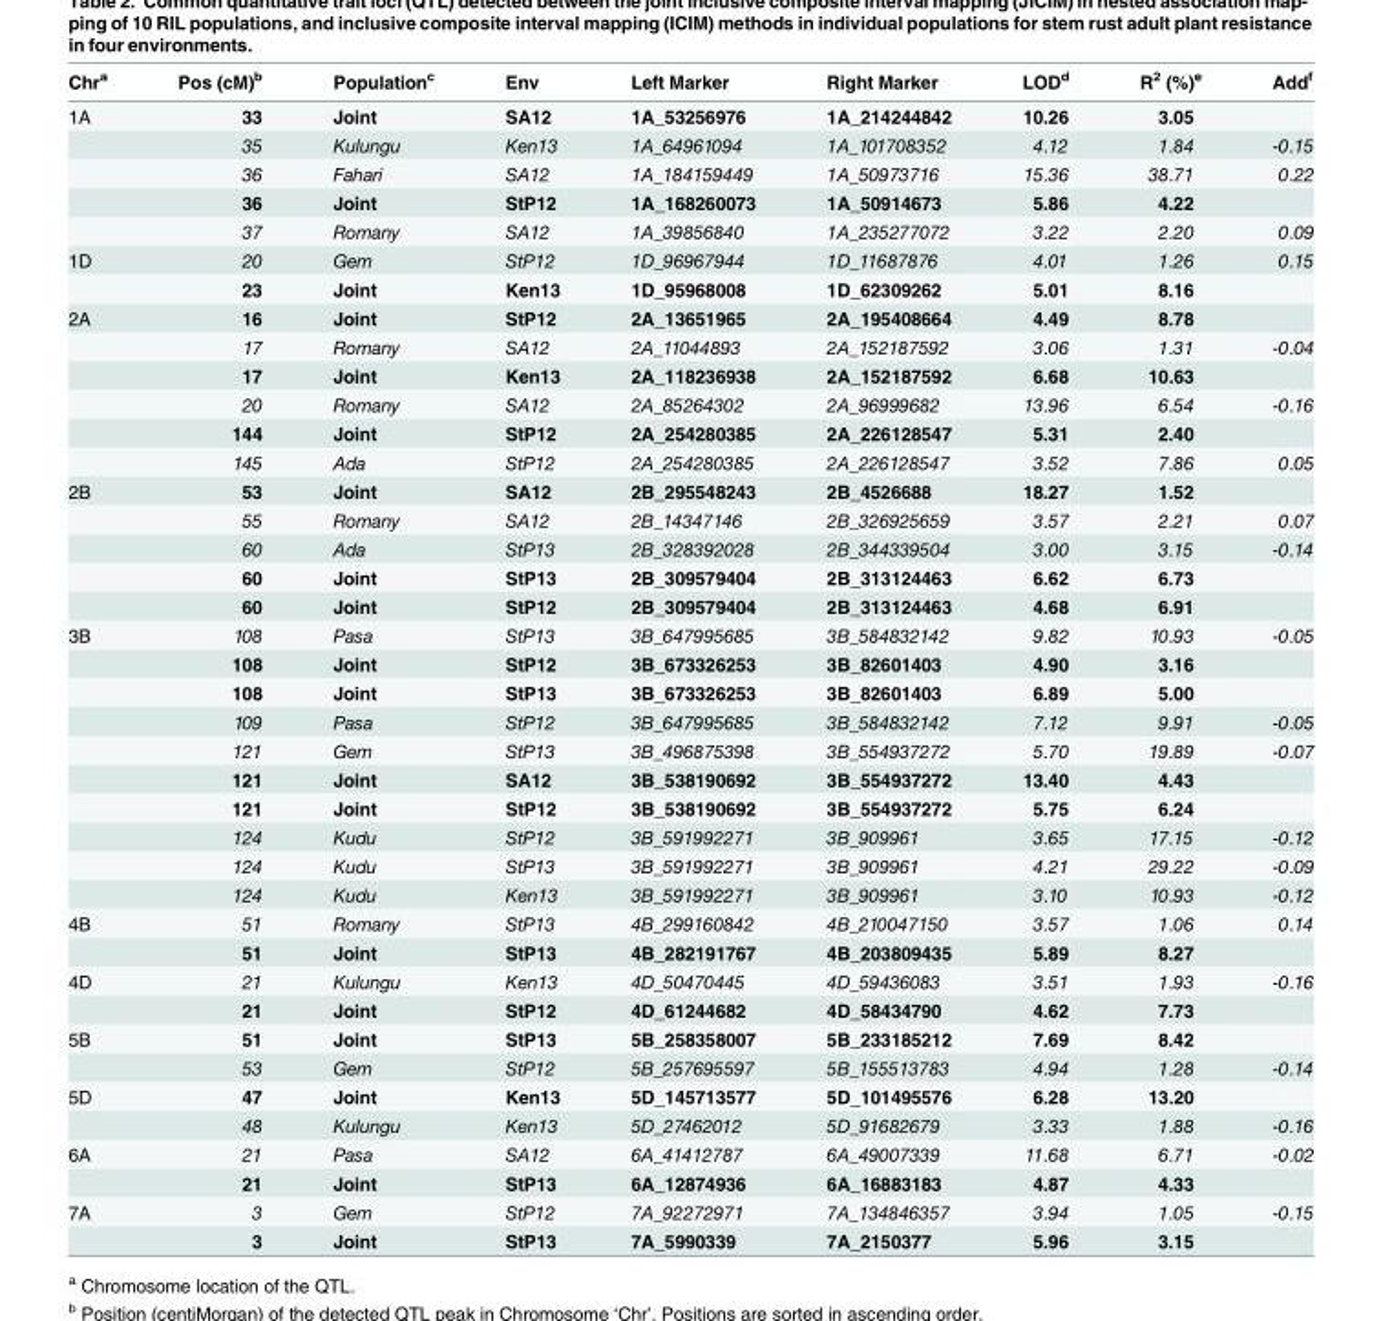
<table><thead><tr><td>Chr<sup>a</sup></td><td>Pos (cM)<sup>b</sup></td><td>Population<sup>c</sup></td><td>Env</td><td>Left Marker</td><td>Right Marker</td><td>LOD<sup>d</sup></td><td>R<sup>2</sup> (%)<sup>e</sup></td><td>Add<sup>f</sup></td></tr></thead><tbody><tr><td rowspan="5">1A</td><td>33</td><td>Joint</td><td>SA12</td><td>1A_53256976</td><td>1A_214244842</td><td>10.26</td><td>3.05</td><td></td></tr><tr><td>35</td><td>Kulungu</td><td>Ken13</td><td>1A_64961094</td><td>1A_101708352</td><td>4.12</td><td>1.84</td><td>-0.15</td></tr><tr><td>36</td><td>Fahari</td><td>SA12</td><td>1A_184159449</td><td>1A_50973716</td><td>15.36</td><td>38.71</td><td>0.22</td></tr><tr><td>36</td><td>Joint</td><td>StP12</td><td>1A_168260073</td><td>1A_50914673</td><td>5.86</td><td>4.22</td><td></td></tr><tr><td>37</td><td>Romany</td><td>SA12</td><td>1A_39856840</td><td>1A_235277072</td><td>3.22</td><td>2.20</td><td>0.09</td></tr><tr><td rowspan="2">1D</td><td>20</td><td>Gem</td><td>StP12</td><td>1D_96967944</td><td>1D_11687876</td><td>4.01</td><td>1.26</td><td>0.15</td></tr><tr><td>23</td><td>Joint</td><td>Ken13</td><td>1D_95968008</td><td>1D_62309262</td><td>5.01</td><td>8.16</td><td></td></tr><tr><td rowspan="6">2A</td><td>16</td><td>Joint</td><td>StP12</td><td>2A_13651965</td><td>2A_195408664</td><td>4.49</td><td>8.78</td><td></td></tr><tr><td>17</td><td>Romany</td><td>SA12</td><td>2A_11044893</td><td>2A_152187592</td><td>3.06</td><td>1.31</td><td>-0.04</td></tr><tr><td>17</td><td>Joint</td><td>Ken13</td><td>2A_118236938</td><td>2A_152187592</td><td>6.68</td><td>10.63</td><td></td></tr><tr><td>20</td><td>Romany</td><td>SA12</td><td>2A_85264302</td><td>2A_96999682</td><td>13.96</td><td>6.54</td><td>-0.16</td></tr><tr><td>144</td><td>Joint</td><td>StP12</td><td>2A_254280385</td><td>2A_226128547</td><td>5.31</td><td>2.40</td><td></td></tr><tr><td>145</td><td>Ada</td><td>StP12</td><td>2A_254280385</td><td>2A_226128547</td><td>3.52</td><td>7.86</td><td>0.05</td></tr><tr><td rowspan="5">2B</td><td>53</td><td>Joint</td><td>SA12</td><td>2B_295548243</td><td>2B_4526688</td><td>18.27</td><td>1.52</td><td></td></tr><tr><td>55</td><td>Romany</td><td>SA12</td><td>2B_14347146</td><td>2B_326925659</td><td>3.57</td><td>2.21</td><td>0.07</td></tr><tr><td>60</td><td>Ada</td><td>StP13</td><td>2B_328392028</td><td>2B_344339504</td><td>3.00</td><td>3.15</td><td>-0.14</td></tr><tr><td>60</td><td>Joint</td><td>StP13</td><td>2B_309579404</td><td>2B_313124463</td><td>6.62</td><td>6.73</td><td></td></tr><tr><td>60</td><td>Joint</td><td>StP12</td><td>2B_309579404</td><td>2B_313124463</td><td>4.68</td><td>6.91</td><td></td></tr><tr><td rowspan="10">3B</td><td>108</td><td>Pasa</td><td>StP13</td><td>3B_647995685</td><td>3B_584832142</td><td>9.82</td><td>10.93</td><td>-0.05</td></tr><tr><td>108</td><td>Joint</td><td>StP12</td><td>3B_673326253</td><td>3B_82601403</td><td>4.90</td><td>3.16</td><td></td></tr><tr><td>108</td><td>Joint</td><td>StP13</td><td>3B_673326253</td><td>3B_82601403</td><td>6.89</td><td>5.00</td><td></td></tr><tr><td>109</td><td>Pasa</td><td>StP12</td><td>3B_647995685</td><td>3B_584832142</td><td>7.12</td><td>9.91</td><td>-0.05</td></tr><tr><td>121</td><td>Gem</td><td>StP13</td><td>3B_496875398</td><td>3B_554937272</td><td>5.70</td><td>19.89</td><td>-0.07</td></tr><tr><td>121</td><td>Joint</td><td>SA12</td><td>3B_538190692</td><td>3B_554937272</td><td>13.40</td><td>4.43</td><td></td></tr><tr><td>121</td><td>Joint</td><td>StP12</td><td>3B_538190692</td><td>3B_554937272</td><td>5.75</td><td>6.24</td><td></td></tr><tr><td>124</td><td>Kudu</td><td>StP12</td><td>3B_591992271</td><td>3B_909961</td><td>3.65</td><td>17.15</td><td>-0.12</td></tr><tr><td>124</td><td>Kudu</td><td>StP13</td><td>3B_591992271</td><td>3B_909961</td><td>4.21</td><td>29.22</td><td>-0.09</td></tr><tr><td>124</td><td>Kudu</td><td>Ken13</td><td>3B_591992271</td><td>3B_909961</td><td>3.10</td><td>10.93</td><td>-0.12</td></tr><tr><td rowspan="2">4B</td><td>51</td><td>Romany</td><td>StP13</td><td>4B_299160842</td><td>4B_210047150</td><td>3.57</td><td>1.06</td><td>0.14</td></tr><tr><td>51</td><td>Joint</td><td>StP13</td><td>4B_282191767</td><td>4B_203809435</td><td>5.89</td><td>8.27</td><td></td></tr><tr><td rowspan="2">4D</td><td>21</td><td>Kulungu</td><td>Ken13</td><td>4D_50470445</td><td>4D_59436083</td><td>3.51</td><td>1.93</td><td>-0.16</td></tr><tr><td>21</td><td>Joint</td><td>StP12</td><td>4D_61244682</td><td>4D_58434790</td><td>4.62</td><td>7.73</td><td></td></tr><tr><td rowspan="2">5B</td><td>51</td><td>Joint</td><td>StP13</td><td>5B_258358007</td><td>5B_233185212</td><td>7.69</td><td>8.42</td><td></td></tr><tr><td>53</td><td>Gem</td><td>StP12</td><td>5B_257695597</td><td>5B_155513783</td><td>4.94</td><td>1.28</td><td>-0.14</td></tr><tr><td rowspan="2">5D</td><td>47</td><td>Joint</td><td>Ken13</td><td>5D_145713577</td><td>5D_101495576</td><td>6.28</td><td>13.20</td><td></td></tr><tr><td>48</td><td>Kulungu</td><td>Ken13</td><td>5D_27462012</td><td>5D_91682679</td><td>3.33</td><td>1.88</td><td>-0.16</td></tr><tr><td rowspan="2">6A</td><td>21</td><td>Pasa</td><td>SA12</td><td>6A_41412787</td><td>6A_49007339</td><td>11.68</td><td>6.71</td><td>-0.02</td></tr><tr><td>21</td><td>Joint</td><td>StP13</td><td>6A_12874936</td><td>6A_16883183</td><td>4.87</td><td>4.33</td><td></td></tr><tr><td rowspan="2">7A</td><td>3</td><td>Gem</td><td>StP12</td><td>7A_92272971</td><td>7A_134846357</td><td>3.94</td><td>1.05</td><td>-0.15</td></tr><tr><td>3</td><td>Joint</td><td>StP13</td><td>7A_5990339</td><td>7A_2150377</td><td>5.96</td><td>3.15</td><td></td></tr></tbody></table>